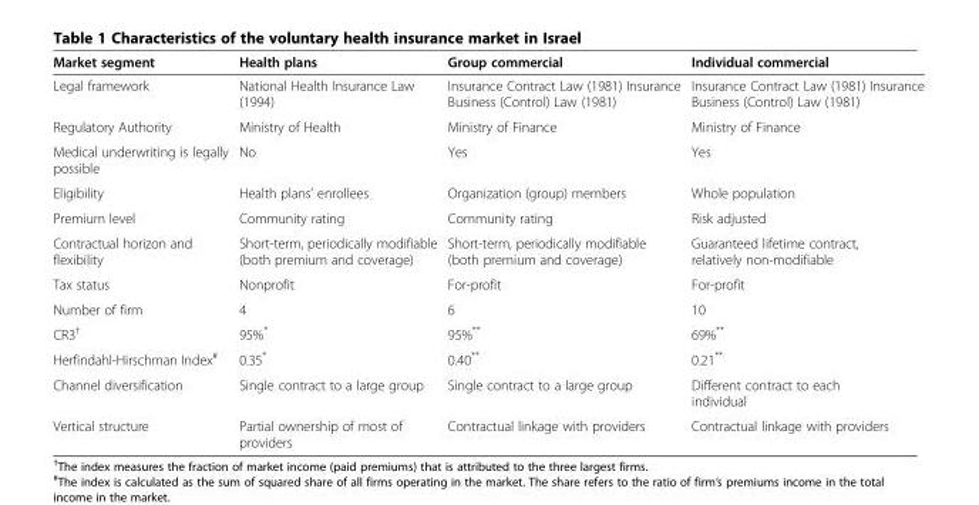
<table><thead><tr><td>Market segment</td><td>Health plans</td><td>Group commercial</td><td>Individual commercial</td></tr></thead><tbody><tr><td>Legal framework</td><td>National Health Insurance Law (1994)</td><td>Insurance Contract Law (1981) Insurance Business (Control) Law (1981)</td><td>Insurance Contract Law (1981) Insurance Business (Control) Law (1981)</td></tr><tr><td>Regulatory Authority</td><td>Ministry of Health</td><td>Ministry of Finance</td><td>Ministry of Finance</td></tr><tr><td>Medical underwriting is legally possible</td><td>No</td><td>Yes</td><td>Yes</td></tr><tr><td>Eligibility</td><td>Health plans’ enrollees</td><td>Organization (group) members</td><td>Whole population</td></tr><tr><td>Premium level</td><td>Community rating</td><td>Community rating</td><td>Risk adjusted</td></tr><tr><td>Contractual horizon and flexibility</td><td>Short-term, periodically modifiable (both premium and coverage)</td><td>Short-term, periodically modifiable (both premium and coverage)</td><td>Guaranteed lifetime contract, relatively non-modifiable</td></tr><tr><td>Tax status</td><td>Nonprofit</td><td>For-profit</td><td>For-profit</td></tr><tr><td>Number of firm</td><td>4</td><td>6</td><td>10</td></tr><tr><td>CR3<sup>†</sup></td><td>95%*</td><td>95%**</td><td>69%**</td></tr><tr><td>Herfindahl-Hirschman Index<sup>#</sup></td><td>0.35*</td><td>0.40**</td><td>0.21**</td></tr><tr><td>Channel diversification</td><td>Single contract to a large group</td><td>Single contract to a large group</td><td>Different contract to each individual</td></tr><tr><td>Vertical structure</td><td>Partial ownership of most of providers</td><td>Contractual linkage with providers</td><td>Contractual linkage with providers</td></tr></tbody></table>